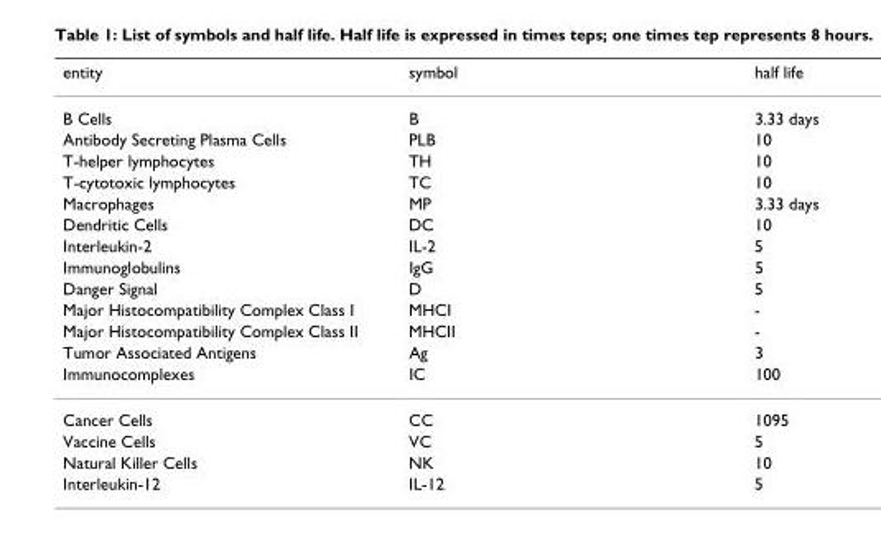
<table><thead><tr><td>entity</td><td>symbol</td><td>half life</td></tr></thead><tbody><tr><td>B Cells</td><td>B</td><td>3.33 days</td></tr><tr><td>Antibody Secreting Plasma Cells</td><td>PLB</td><td>10</td></tr><tr><td>T-helper lymphocytes</td><td>TH</td><td>10</td></tr><tr><td>T-cytotoxic lymphocytes</td><td>TC</td><td>10</td></tr><tr><td>Macrophages</td><td>MP</td><td>3.33 days</td></tr><tr><td>Dendritic Cells</td><td>DC</td><td>10</td></tr><tr><td>Interleukin-2</td><td>IL-2</td><td>5</td></tr><tr><td>Immunoglobulins</td><td>IgG</td><td>5</td></tr><tr><td>Danger Signal</td><td>D</td><td>5</td></tr><tr><td>Major Histocompatibility Complex Class I</td><td>MHCI</td><td>-</td></tr><tr><td>Major Histocompatibility Complex Class II</td><td>MHCII</td><td>-</td></tr><tr><td>Tumor Associated Antigens</td><td>Ag</td><td>3</td></tr><tr><td>Immunocomplexes</td><td>IC</td><td>100</td></tr><tr><td>Cancer Cells</td><td>CC</td><td>1095</td></tr><tr><td>Vaccine Cells</td><td>VC</td><td>5</td></tr><tr><td>Natural Killer Cells</td><td>NK</td><td>10</td></tr><tr><td>Interleukin-12</td><td>IL-12</td><td>5</td></tr></tbody></table>